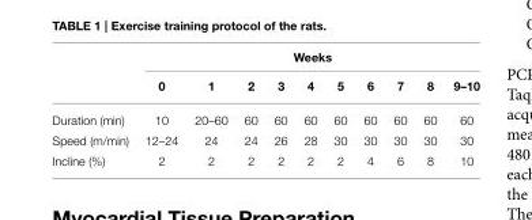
<table><thead><tr><td rowspan="2"></td><td colspan="10">Weeks</td></tr><tr><td>0</td><td>1</td><td>2</td><td>3</td><td>4</td><td>5</td><td>6</td><td>7</td><td>8</td><td>9–10</td></tr></thead><tbody><tr><td>Duration (min)</td><td>10</td><td>20–60</td><td>60</td><td>60</td><td>60</td><td>60</td><td>60</td><td>60</td><td>60</td><td>60</td></tr><tr><td>Speed (m/min)</td><td>12–24</td><td>24</td><td>24</td><td>26</td><td>28</td><td>30</td><td>30</td><td>30</td><td>30</td><td>30</td></tr><tr><td>Incline (%)</td><td>2</td><td>2</td><td>2</td><td>2</td><td>2</td><td>2</td><td>4</td><td>6</td><td>8</td><td>10</td></tr></tbody></table>